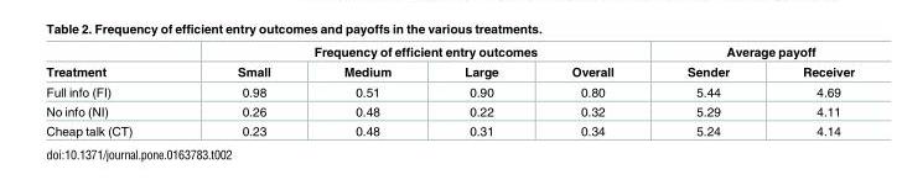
<table><thead><tr><td rowspan="2">Treatment</td><td colspan="4">Frequency of efficient entry outcomes</td><td colspan="2">Average payoff</td></tr><tr><td>Small</td><td>Medium</td><td>Large</td><td>Overall</td><td>Sender</td><td>Receiver</td></tr></thead><tbody><tr><td>Full info (FI)</td><td>0.98</td><td>0.51</td><td>0.90</td><td>0.80</td><td>5.44</td><td>4.69</td></tr><tr><td>No info (NI)</td><td>0.26</td><td>0.48</td><td>0.22</td><td>0.32</td><td>5.29</td><td>4.11</td></tr><tr><td>Cheap talk (CT)</td><td>0.23</td><td>0.48</td><td>0.31</td><td>0.34</td><td>5.24</td><td>4.14</td></tr></tbody></table>